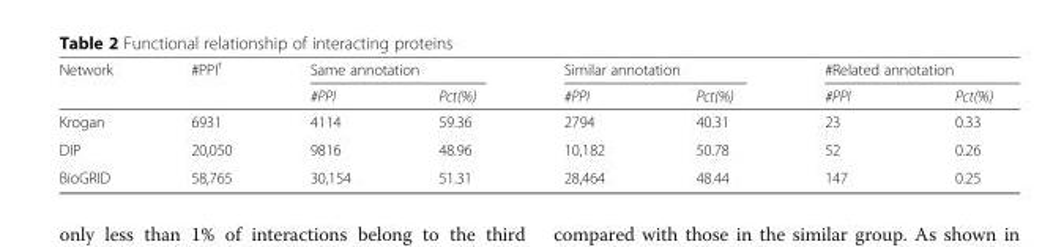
<table><thead><tr><td rowspan="2">Network</td><td rowspan="2">#PPI<sup>t</sup></td><td colspan="2">Same annotation</td><td colspan="2">Similar annotation</td><td colspan="2">#Related annotation</td></tr><tr><td>#PPI</td><td>Pct(%)</td><td>#PPI</td><td>Pct(%)</td><td>#PPI</td><td>Pct(%)</td></tr></thead><tbody><tr><td>Krogan</td><td>6931</td><td>4114</td><td>59.36</td><td>2794</td><td>40.31</td><td>23</td><td>0.33</td></tr><tr><td>DIP</td><td>20,050</td><td>9816</td><td>48.96</td><td>10,182</td><td>50.78</td><td>52</td><td>0.26</td></tr><tr><td>BioGRID</td><td>58,765</td><td>30,154</td><td>51.31</td><td>28,464</td><td>48.44</td><td>147</td><td>0.25</td></tr></tbody></table>